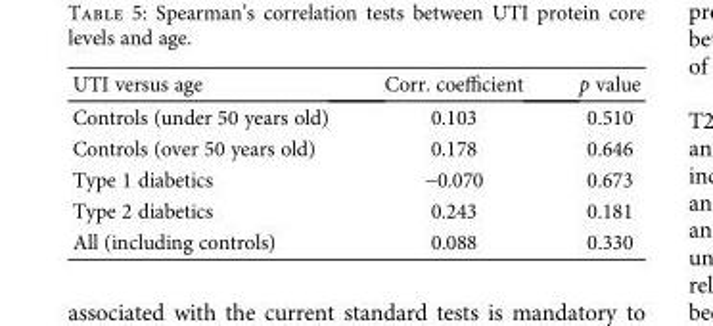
<table><thead><tr><td>UTI versus age</td><td>Corr. coefficient</td><td>p value</td></tr></thead><tbody><tr><td>Controls (under 50 years old)</td><td>0.103</td><td>0.510</td></tr><tr><td>Controls (over 50 years old)</td><td>0.178</td><td>0.646</td></tr><tr><td>Type 1 diabetics</td><td>−0.070</td><td>0.673</td></tr><tr><td>Type 2 diabetics</td><td>0.243</td><td>0.181</td></tr><tr><td>All (including controls)</td><td>0.088</td><td>0.330</td></tr></tbody></table>